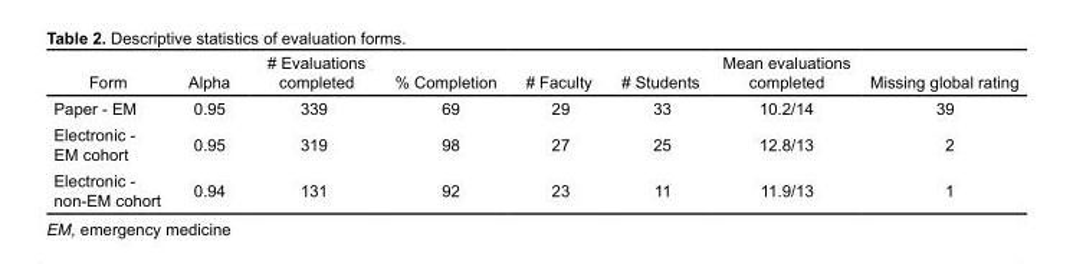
<table><thead><tr><td>Form</td><td>Alpha</td><td># Evaluations completed</td><td>% Completion</td><td># Faculty</td><td># Students</td><td>Mean evaluations completed</td><td>Missing global rating</td></tr></thead><tbody><tr><td>Paper - EM</td><td>0.95</td><td>339</td><td>69</td><td>29</td><td>33</td><td>10.2/14</td><td>39</td></tr><tr><td>Electronic - EM cohort</td><td>0.95</td><td>319</td><td>98</td><td>27</td><td>25</td><td>12.8/13</td><td>2</td></tr><tr><td>Electronic - non-EM cohort</td><td>0.94</td><td>131</td><td>92</td><td>23</td><td>11</td><td>11.9/13</td><td>1</td></tr></tbody></table>